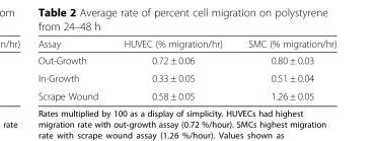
<table><thead><tr><td>Assay</td><td>HUVEC (% migration/hr)</td><td>SMC (% migration/hr)</td></tr></thead><tbody><tr><td>Out-Growth</td><td>0.72 ± 0.06</td><td>0.80 ± 0.03</td></tr><tr><td>In-Growth</td><td>0.33 ± 0.05</td><td>0.51 ± 0.04</td></tr><tr><td>Scrape Wound</td><td>0.58 ± 0.05</td><td>1.26 ± 0.05</td></tr></tbody></table>